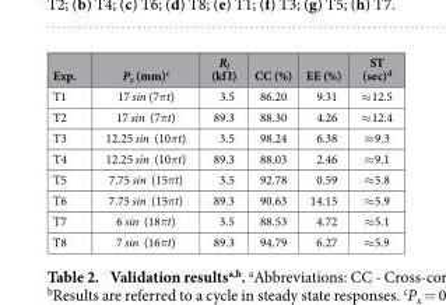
<table><thead><tr><td>Exp.</td><td>P<sub>z</sub> (mm)<sup>c</sup></td><td>R<sub>l</sub> (kΩ)</td><td>CC (%)</td><td>EE (%)</td><td>ST (sec)<sup>d</sup></td></tr></thead><tbody><tr><td>T1</td><td>17 sin (7πt)</td><td>3.5</td><td>86.20</td><td>9.31</td><td>≈ 12.5</td></tr><tr><td>T2</td><td>17 sin (7πt)</td><td>89.3</td><td>88.30</td><td>4.26</td><td>≈ 12.4</td></tr><tr><td>T3</td><td>12.25 sin (10πt)</td><td>3.5</td><td>98.24</td><td>6.38</td><td>≈ 9.3</td></tr><tr><td>T4</td><td>12.25 sin (10πt)</td><td>89.3</td><td>88.03</td><td>2.46</td><td>≈ 9.1</td></tr><tr><td>T5</td><td>7.75 sin (15πt)</td><td>3.5</td><td>92.78</td><td>0.59</td><td>≈ 5.8</td></tr><tr><td>T6</td><td>7.75 sin (15πt)</td><td>89.3</td><td>90.63</td><td>14.15</td><td>≈ 5.9</td></tr><tr><td>T7</td><td>6 sin (18πt)</td><td>3.5</td><td>88.53</td><td>4.72</td><td>≈ 5.1</td></tr><tr><td>T8</td><td>7 sin (16πt)</td><td>89.3</td><td>94.79</td><td>6.27</td><td>≈ 5.9</td></tr></tbody></table>